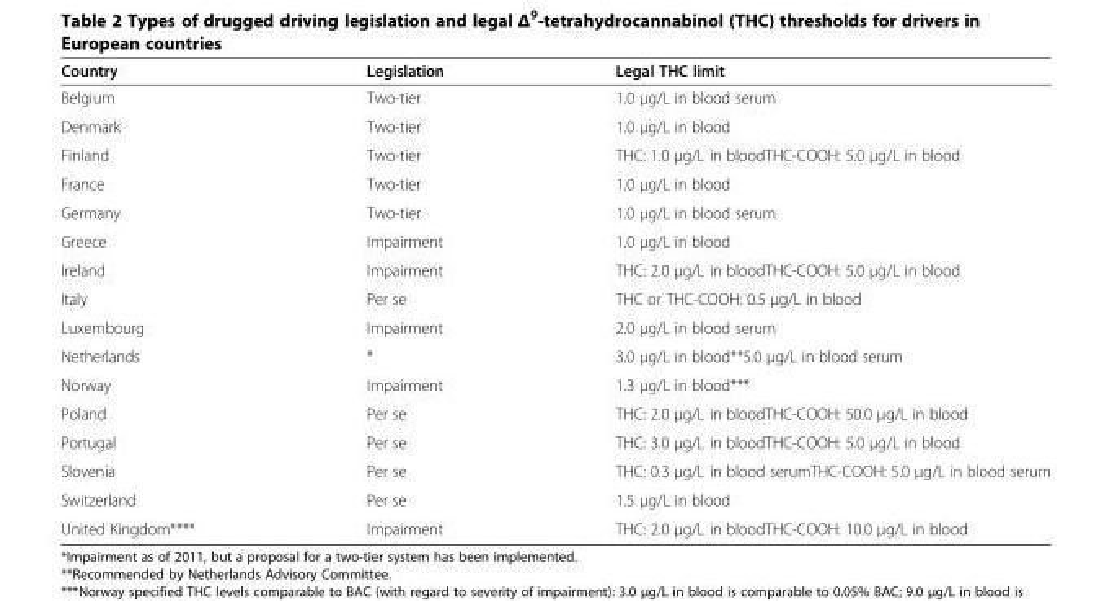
<table><thead><tr><td>Country</td><td>Legislation</td><td>Legal THC limit</td></tr></thead><tbody><tr><td>Belgium</td><td>Two-tier</td><td>1.0 μg/L in blood serum</td></tr><tr><td>Denmark</td><td>Two-tier</td><td>1.0 μg/L in blood</td></tr><tr><td>Finland</td><td>Two-tier</td><td>THC: 1.0 μg/L in bloodTHC-COOH: 5.0 μg/L in blood</td></tr><tr><td>France</td><td>Two-tier</td><td>1.0 μg/L in blood</td></tr><tr><td>Germany</td><td>Two-tier</td><td>1.0 μg/L in blood serum</td></tr><tr><td>Greece</td><td>Impairment</td><td>1.0 μg/L in blood</td></tr><tr><td>Ireland</td><td>Impairment</td><td>THC: 2.0 μg/L in bloodTHC-COOH: 5.0 μg/L in blood</td></tr><tr><td>Italy</td><td>Per se</td><td>THC or THC-COOH: 0.5 μg/L in blood</td></tr><tr><td>Luxembourg</td><td>Impairment</td><td>2.0 μg/L in blood serum</td></tr><tr><td>Netherlands</td><td>*</td><td>3.0 μg/L in blood**5.0 μg/L in blood serum</td></tr><tr><td>Norway</td><td>Impairment</td><td>1.3 μg/L in blood***</td></tr><tr><td>Poland</td><td>Per se</td><td>THC: 2.0 μg/L in bloodTHC-COOH: 50.0 μg/L in blood</td></tr><tr><td>Portugal</td><td>Per se</td><td>THC: 3.0 μg/L in bloodTHC-COOH: 5.0 μg/L in blood</td></tr><tr><td>Slovenia</td><td>Per se</td><td>THC: 0.3 μg/L in blood serumTHC-COOH: 5.0 μg/L in blood serum</td></tr><tr><td>Switzerland</td><td>Per se</td><td>1.5 μg/L in blood</td></tr><tr><td>United Kingdom****</td><td>Impairment</td><td>THC: 2.0 μg/L in bloodTHC-COOH: 10.0 μg/L in blood</td></tr></tbody></table>